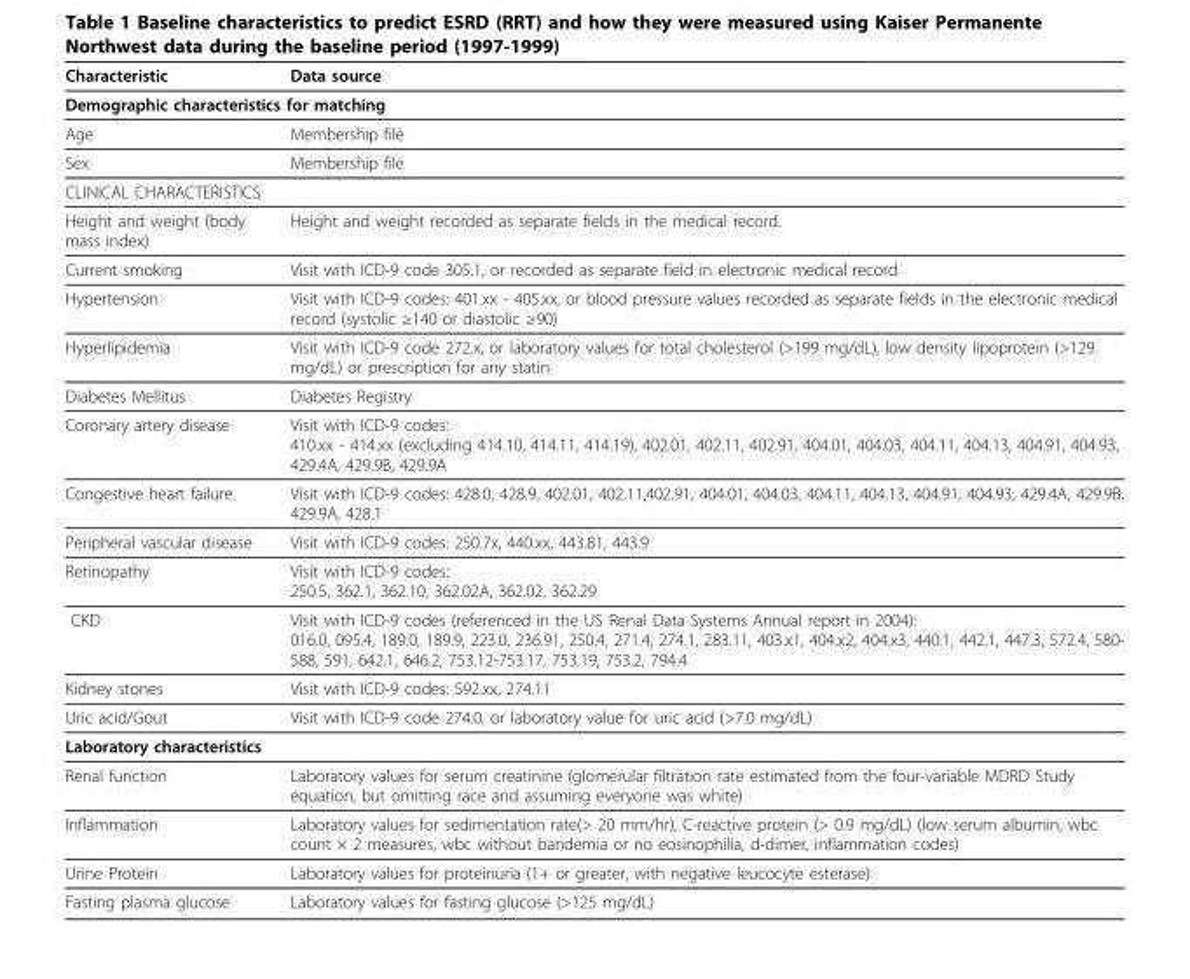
<table><thead><tr><td>Characteristic</td><td>Data source</td></tr></thead><tbody><tr><td colspan="2">Demographic characteristics for matching</td></tr><tr><td>Age</td><td>Membership file</td></tr><tr><td>Sex</td><td>Membership file</td></tr><tr><td colspan="2">CLINICAL CHARACTERISTICS</td></tr><tr><td>Height and weight (body mass index)</td><td>Height and weight recorded as separate fields in the medical record.</td></tr><tr><td>Current smoking</td><td>Visit with ICD-9 code 305.1, or recorded as separate field in electronic medical record</td></tr><tr><td>Hypertension</td><td>Visit with ICD-9 codes: 401.xx - 405.xx, or blood pressure values recorded as separate fields in the electronic medical record (systolic ≥140 or diastolic ≥90)</td></tr><tr><td>Hyperlipidemia</td><td>Visit with ICD-9 code 272.x, or laboratory values for total cholesterol (&gt;199 mg/dL), low density lipoprotein (&gt;129 mg/dL) or prescription for any statin</td></tr><tr><td>Diabetes Mellitus</td><td>Diabetes Registry</td></tr><tr><td>Coronary artery disease</td><td>Visit with ICD-9 codes: 410.xx - 414.xx (excluding 414.10, 414.11, 414.19), 402.01, 402.11, 402.91, 404.01, 404.03, 404.11, 404.13, 404.91, 404.93, 429.4A, 429.9B, 429.9A</td></tr><tr><td>Congestive heart failure</td><td>Visit with ICD-9 codes: 428.0, 428.9, 402.01, 402.11,402.91, 404.01, 404.03, 404.11, 404.13, 404.91, 404.93, 429.4A, 429.9B, 429.9A, 428.1</td></tr><tr><td>Peripheral vascular disease</td><td>Visit with ICD-9 codes: 250.7x, 440.xx, 443.81, 443.9</td></tr><tr><td>Retinopathy</td><td>Visit with ICD-9 codes: 250.5, 362.1, 362.10, 362.02A, 362.02, 362.29</td></tr><tr><td>CKD</td><td>Visit with ICD-9 codes (referenced in the US Renal Data Systems Annual report in 2004): 016.0, 095.4, 189.0, 189.9, 223.0, 236.91, 250.4, 271.4, 274.1, 283.11, 403.x1, 404.x2, 404.x3, 440.1, 442.1, 447.3, 572.4, 580- 588, 591, 642.1, 646.2, 753.12-753.17, 753.19, 753.2, 794.4</td></tr><tr><td>Kidney stones</td><td>Visit with ICD-9 codes: 592.xx, 274.11</td></tr><tr><td>Uric acid/Gout</td><td>Visit with ICD-9 code 274.0, or laboratory value for uric acid (&gt;7.0 mg/dL)</td></tr><tr><td colspan="2">Laboratory characteristics</td></tr><tr><td>Renal function</td><td>Laboratory values for serum creatinine (glomerular filtration rate estimated from the four-variable MDRD Study equation, but omitting race and assuming everyone was white)</td></tr><tr><td>Inflammation</td><td>Laboratory values for sedimentation rate(&gt; 20 mm/hr), C-reactive protein (&gt; 0.9 mg/dL) (low serum albumin, wbc count × 2 measures, wbc without bandemia or no eosinophilia, d-dimer, inflammation codes)</td></tr><tr><td>Urine Protein</td><td>Laboratory values for proteinuria (1+ or greater, with negative leucocyte esterase)</td></tr><tr><td>Fasting plasma glucose</td><td>Laboratory values for fasting glucose (&gt;125 mg/dL)</td></tr></tbody></table>